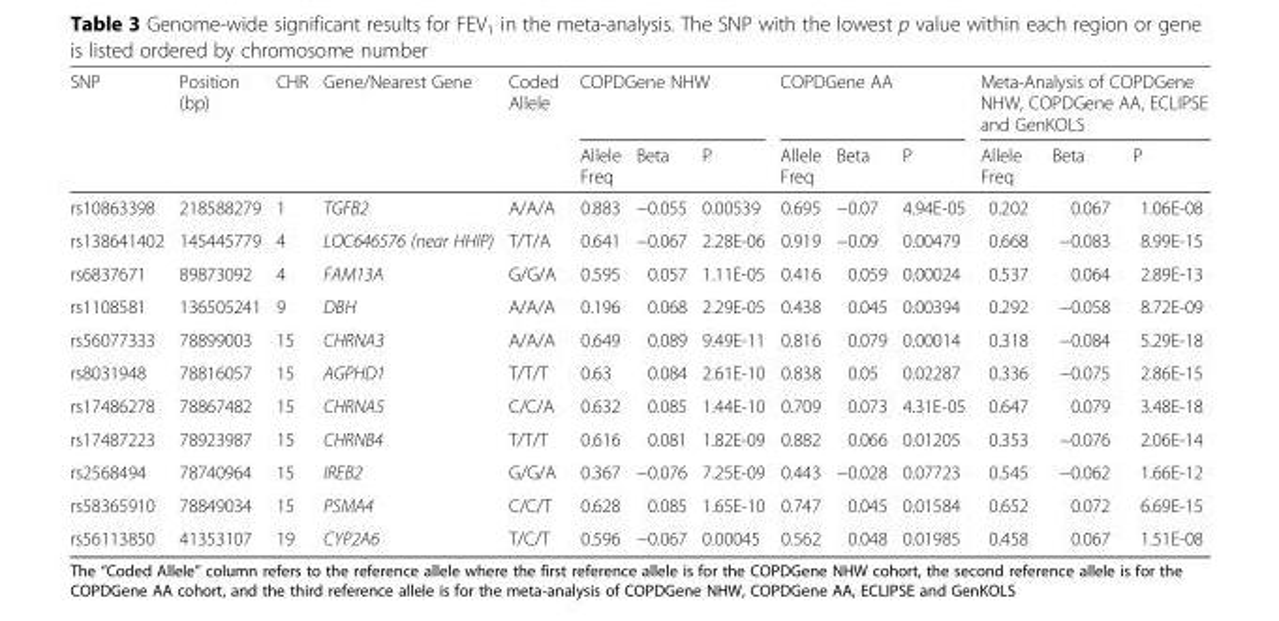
<table><thead><tr><td rowspan="2">SNP</td><td rowspan="2">Position (bp)</td><td rowspan="2">CHR</td><td rowspan="2">Gene/Nearest Gene</td><td rowspan="2">Coded Allele</td><td colspan="3">COPDGene NHW</td><td colspan="3">COPDGene AA</td><td colspan="3">Meta-Analysis of COPDGene NHW, COPDGene AA, ECLIPSE and GenKOLS</td></tr><tr><td>Allele Freq</td><td>Beta</td><td>P</td><td>Allele Freq</td><td>Beta</td><td>P</td><td>Allele Freq</td><td>Beta</td><td>P</td></tr></thead><tbody><tr><td>rs10863398</td><td>218588279</td><td>1</td><td>TGFB2</td><td>A/A/A</td><td>0.883</td><td>−0.055</td><td>0.00539</td><td>0.695</td><td>−0.07</td><td>4.94E-05</td><td>0.202</td><td>0.067</td><td>1.06E-08</td></tr><tr><td>rs138641402</td><td>145445779</td><td>4</td><td>LOC646576 (near HHIP)</td><td>T/T/A</td><td>0.641</td><td>−0.067</td><td>2.28E-06</td><td>0.919</td><td>−0.09</td><td>0.00479</td><td>0.668</td><td>−0.083</td><td>8.99E-15</td></tr><tr><td>rs6837671</td><td>89873092</td><td>4</td><td>FAM13A</td><td>G/G/A</td><td>0.595</td><td>0.057</td><td>1.11E-05</td><td>0.416</td><td>0.059</td><td>0.00024</td><td>0.537</td><td>0.064</td><td>2.89E-13</td></tr><tr><td>rs1108581</td><td>136505241</td><td>9</td><td>DBH</td><td>A/A/A</td><td>0.196</td><td>0.068</td><td>2.29E-05</td><td>0.438</td><td>0.045</td><td>0.00394</td><td>0.292</td><td>−0.058</td><td>8.72E-09</td></tr><tr><td>rs56077333</td><td>78899003</td><td>15</td><td>CHRNA3</td><td>A/A/A</td><td>0.649</td><td>0.089</td><td>9.49E-11</td><td>0.816</td><td>0.079</td><td>0.00014</td><td>0.318</td><td>−0.084</td><td>5.29E-18</td></tr><tr><td>rs8031948</td><td>78816057</td><td>15</td><td>AGPHD1</td><td>T/T/T</td><td>0.63</td><td>0.084</td><td>2.61E-10</td><td>0.838</td><td>0.05</td><td>0.02287</td><td>0.336</td><td>−0.075</td><td>2.86E-15</td></tr><tr><td>rs17486278</td><td>78867482</td><td>15</td><td>CHRNA5</td><td>C/C/A</td><td>0.632</td><td>0.085</td><td>1.44E-10</td><td>0.709</td><td>0.073</td><td>4.31E-05</td><td>0.647</td><td>0.079</td><td>3.48E-18</td></tr><tr><td>rs17487223</td><td>78923987</td><td>15</td><td>CHRNB4</td><td>T/T/T</td><td>0.616</td><td>0.081</td><td>1.82E-09</td><td>0.882</td><td>0.066</td><td>0.01205</td><td>0.353</td><td>−0.076</td><td>2.06E-14</td></tr><tr><td>rs2568494</td><td>78740964</td><td>15</td><td>IREB2</td><td>G/G/A</td><td>0.367</td><td>−0.076</td><td>7.25E-09</td><td>0.443</td><td>−0.028</td><td>0.07723</td><td>0.545</td><td>−0.062</td><td>1.66E-12</td></tr><tr><td>rs58365910</td><td>78849034</td><td>15</td><td>PSMA4</td><td>C/C/T</td><td>0.628</td><td>0.085</td><td>1.65E-10</td><td>0.747</td><td>0.045</td><td>0.01584</td><td>0.652</td><td>0.072</td><td>6.69E-15</td></tr><tr><td>rs56113850</td><td>41353107</td><td>19</td><td>CYP2A6</td><td>T/C/T</td><td>0.596</td><td>−0.067</td><td>0.00045</td><td>0.562</td><td>0.048</td><td>0.01985</td><td>0.458</td><td>0.067</td><td>1.51E-08</td></tr></tbody></table>